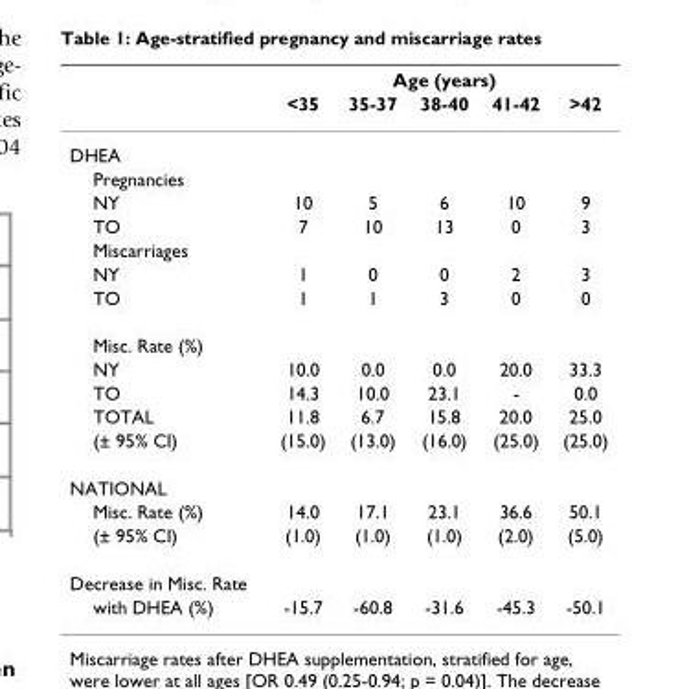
<table><thead><tr><td rowspan="2"></td><td colspan="5">Age (years)</td></tr><tr><td>&lt;35</td><td>35-37</td><td>38-40</td><td>41-42</td><td>&gt;42</td></tr></thead><tbody><tr><td colspan="6">DHEA</td></tr><tr><td colspan="6">Pregnancies</td></tr><tr><td>NY</td><td>10</td><td>5</td><td>6</td><td>10</td><td>9</td></tr><tr><td>TO</td><td>7</td><td>10</td><td>13</td><td>0</td><td>3</td></tr><tr><td colspan="6">Miscarriages</td></tr><tr><td>NY</td><td>1</td><td>0</td><td>0</td><td>2</td><td>3</td></tr><tr><td>TO</td><td>1</td><td>1</td><td>3</td><td>0</td><td>0</td></tr><tr><td colspan="6">Misc. Rate (%)</td></tr><tr><td>NY</td><td>10.0</td><td>0.0</td><td>0.0</td><td>20.0</td><td>33.3</td></tr><tr><td>TO</td><td>14.3</td><td>10.0</td><td>23.1</td><td>-</td><td>0.0</td></tr><tr><td>TOTAL</td><td>11.8</td><td>6.7</td><td>15.8</td><td>20.0</td><td>25.0</td></tr><tr><td>(± 95% CI)</td><td>(15.0)</td><td>(13.0)</td><td>(16.0)</td><td>(25.0)</td><td>(25.0)</td></tr><tr><td colspan="6">NATIONAL</td></tr><tr><td>Misc. Rate (%)</td><td>14.0</td><td>17.1</td><td>23.1</td><td>36.6</td><td>50.1</td></tr><tr><td>(± 95% CI)</td><td>(1.0)</td><td>(1.0)</td><td>(1.0)</td><td>(2.0)</td><td>(5.0)</td></tr><tr><td colspan="6">Decrease in Misc. Rate</td></tr><tr><td>with DHEA (%)</td><td>-15.7</td><td>-60.8</td><td>-31.6</td><td>-45.3</td><td>-50.1</td></tr></tbody></table>